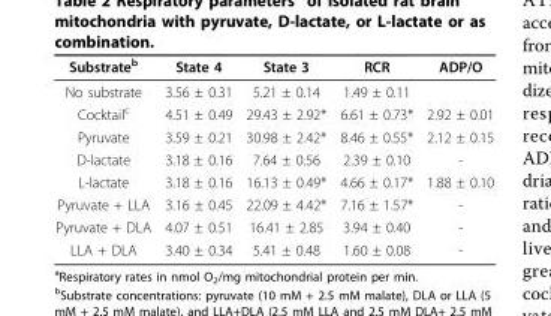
<table><thead><tr><td>Substrate<sup>b</sup></td><td>State 4</td><td>State 3</td><td>RCR</td><td>ADP/O</td></tr></thead><tbody><tr><td>No substrate</td><td>3.56 ± 0.31</td><td>5.21 ± 0.14</td><td>1.49 ± 0.11</td><td></td></tr><tr><td>Cocktail<sup>c</sup></td><td>4.51 ± 0.49</td><td>29.43 ± 2.92*</td><td>6.61 ± 0.73*</td><td>2.92 ± 0.01</td></tr><tr><td>Pyruvate</td><td>3.59 ± 0.21</td><td>30.98 ± 2.42*</td><td>8.46 ± 0.55*</td><td>2.12 ± 0.15</td></tr><tr><td>D-lactate</td><td>3.18 ± 0.16</td><td>7.64 ± 0.56</td><td>2.39 ± 0.10</td><td>-</td></tr><tr><td>L-lactate</td><td>3.18 ± 0.16</td><td>16.13 ± 0.49*</td><td>4.66 ± 0.17*</td><td>1.88 ± 0.10</td></tr><tr><td>Pyruvate + LLA</td><td>3.16 ± 0.45</td><td>22.09 ± 4.42*</td><td>7.16 ± 1.57*</td><td>-</td></tr><tr><td>Pyruvate + DLA</td><td>4.07 ± 0.51</td><td>16.41 ± 2.85</td><td>3.94 ± 0.40</td><td>-</td></tr><tr><td>LLA + DLA</td><td>3.40 ± 0.34</td><td>5.41 ± 0.48</td><td>1.60 ± 0.08</td><td>-</td></tr></tbody></table>